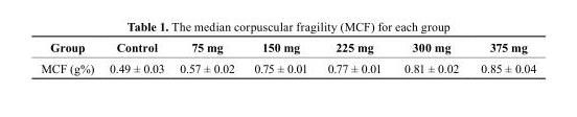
<table><thead><tr><td>Group</td><td>control</td><td>75 mg</td><td>150 mg</td><td>225 mg</td><td>300 mg</td><td>375 mg</td></tr></thead><tbody><tr><td>MCF (g%)</td><td>0.49 ± 0.03</td><td>0.57 ± 0.02</td><td>0.75 ± 0.01</td><td>0.77 ± 0.01</td><td>0.81 ± 0.02</td><td>0.85 ± 0.04</td></tr></tbody></table>